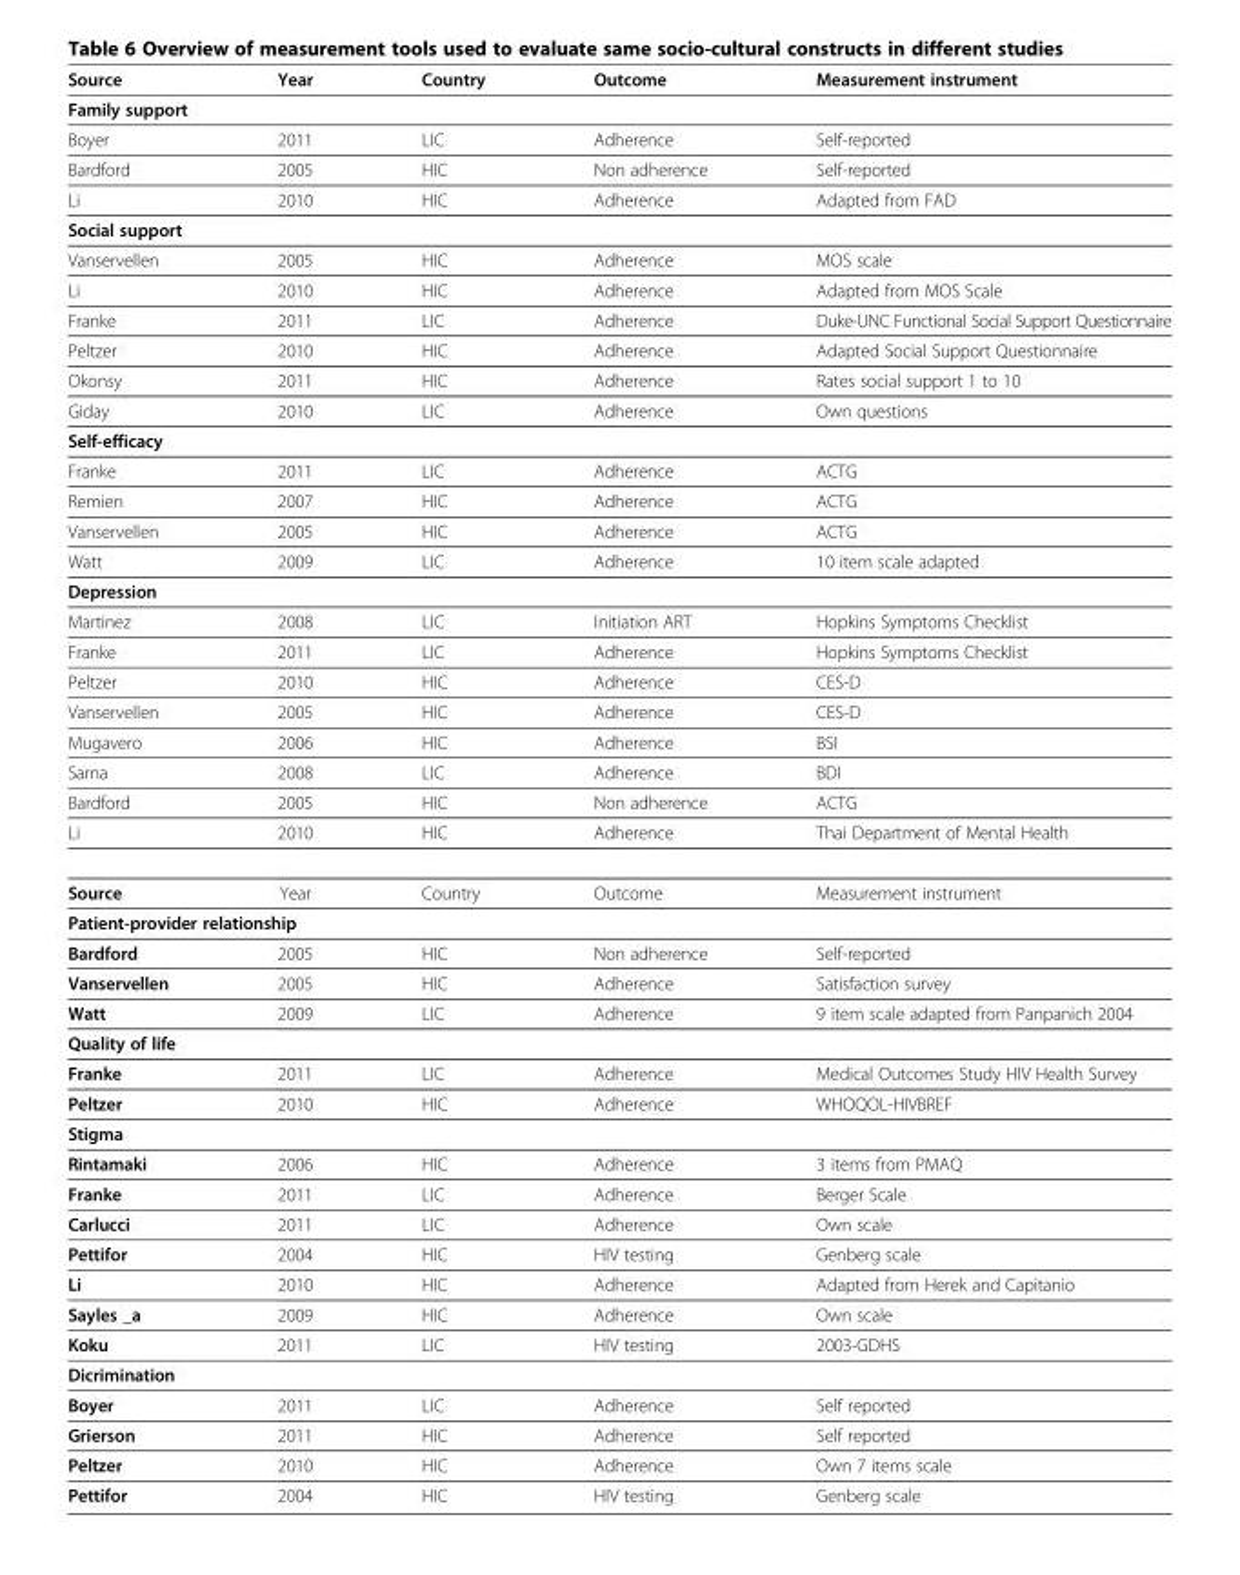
<table><thead><tr><td>Source</td><td>Year</td><td>Country</td><td>Outcome</td><td>Measurement instrument</td></tr></thead><tbody><tr><td colspan="5">Family support</td></tr><tr><td>Boyer</td><td>2011</td><td>LIC</td><td>Adherence</td><td>Self-reported</td></tr><tr><td>Bardford</td><td>2005</td><td>HIC</td><td>Non adherence</td><td>Self-reported</td></tr><tr><td>Li</td><td>2010</td><td>HIC</td><td>Adherence</td><td>Adapted from FAD</td></tr><tr><td colspan="5">Social support</td></tr><tr><td>Vanservellen</td><td>2005</td><td>HIC</td><td>Adherence</td><td>MOS scale</td></tr><tr><td>Li</td><td>2010</td><td>HIC</td><td>Adherence</td><td>Adapted from MOS Scale</td></tr><tr><td>Franke</td><td>2011</td><td>LIC</td><td>Adherence</td><td>Duke-UNC Functional Social Support Questionnaire</td></tr><tr><td>Peltzer</td><td>2010</td><td>HIC</td><td>Adherence</td><td>Adapted Social Support Questionnaire</td></tr><tr><td>Okonsy</td><td>2011</td><td>HIC</td><td>Adherence</td><td>Rates social support 1 to 10</td></tr><tr><td>Giday</td><td>2010</td><td>LIC</td><td>Adherence</td><td>Own questions</td></tr><tr><td colspan="5">Self-efficacy</td></tr><tr><td>Franke</td><td>2011</td><td>LIC</td><td>Adherence</td><td>ACTG</td></tr><tr><td>Remien</td><td>2007</td><td>HIC</td><td>Adherence</td><td>ACTG</td></tr><tr><td>Vanservellen</td><td>2005</td><td>HIC</td><td>Adherence</td><td>ACTG</td></tr><tr><td>Watt</td><td>2009</td><td>LIC</td><td>Adherence</td><td>10 item scale adapted</td></tr><tr><td colspan="5">Depression</td></tr><tr><td>Martinez</td><td>2008</td><td>LIC</td><td>Initiation ART</td><td>Hopkins Symptoms Checklist</td></tr><tr><td>Franke</td><td>2011</td><td>LIC</td><td>Adherence</td><td>Hopkins Symptoms Checklist</td></tr><tr><td>Peltzer</td><td>2010</td><td>HIC</td><td>Adherence</td><td>CES-D</td></tr><tr><td>Vanservellen</td><td>2005</td><td>HIC</td><td>Adherence</td><td>CES-D</td></tr><tr><td>Mugavero</td><td>2006</td><td>HIC</td><td>Adherence</td><td>BSI</td></tr><tr><td>Sarna</td><td>2008</td><td>LIC</td><td>Adherence</td><td>BDI</td></tr><tr><td>Bardford</td><td>2005</td><td>HIC</td><td>Non adherence</td><td>ACTG</td></tr><tr><td>Li</td><td>2010</td><td>HIC</td><td>Adherence</td><td>Thai Department of Mental Health</td></tr><tr><td>Source</td><td>Year</td><td>Country</td><td>Outcome</td><td>Measurement instrument</td></tr><tr><td colspan="5">Patient-provider relationship</td></tr><tr><td>Bardford</td><td>2005</td><td>HIC</td><td>Non adherence</td><td>Self-reported</td></tr><tr><td>Vanservellen</td><td>2005</td><td>HIC</td><td>Adherence</td><td>Satisfaction survey</td></tr><tr><td>Watt</td><td>2009</td><td>LIC</td><td>Adherence</td><td>9 item scale adapted from Panpanich 2004</td></tr><tr><td colspan="5">Quality of life</td></tr><tr><td>Franke</td><td>2011</td><td>LIC</td><td>Adherence</td><td>Medical Outcomes Study HIV Health Survey</td></tr><tr><td>Peltzer</td><td>2010</td><td>HIC</td><td>Adherence</td><td>WHOQOL-HIVBREF</td></tr><tr><td colspan="5">Stigma</td></tr><tr><td>Rintamaki</td><td>2006</td><td>HIC</td><td>Adherence</td><td>3 items from PMAQ</td></tr><tr><td>Franke</td><td>2011</td><td>LIC</td><td>Adherence</td><td>Berger Scale</td></tr><tr><td>Carlucci</td><td>2011</td><td>LIC</td><td>Adherence</td><td>Own scale</td></tr><tr><td>Pettifor</td><td>2004</td><td>HIC</td><td>HIV testing</td><td>Genberg scale</td></tr><tr><td>Li</td><td>2010</td><td>HIC</td><td>Adherence</td><td>Adapted from Herek and Capitanio</td></tr><tr><td>Sayles _a</td><td>2009</td><td>HIC</td><td>Adherence</td><td>Own scale</td></tr><tr><td>Koku</td><td>2011</td><td>LIC</td><td>HIV testing</td><td>2003-GDHS</td></tr><tr><td colspan="5">Dicrimination</td></tr><tr><td>Boyer</td><td>2011</td><td>LIC</td><td>Adherence</td><td>Self reported</td></tr><tr><td>Grierson</td><td>2011</td><td>HIC</td><td>Adherence</td><td>Self reported</td></tr><tr><td>Peltzer</td><td>2010</td><td>HIC</td><td>Adherence</td><td>Own 7 items scale</td></tr><tr><td>Pettifor</td><td>2004</td><td>HIC</td><td>HIV testing</td><td>Genberg scale</td></tr></tbody></table>